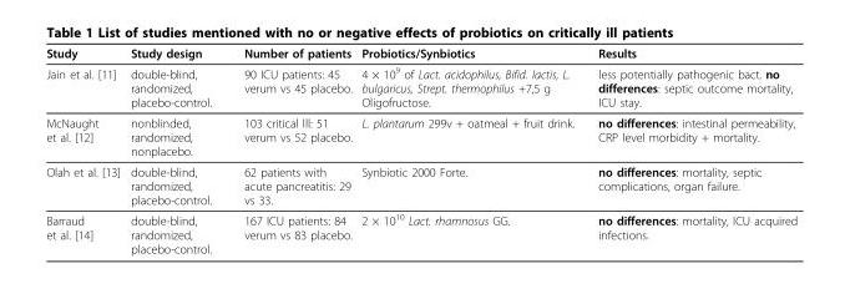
<table><thead><tr><td>Study</td><td>Study design</td><td>Number of patients</td><td>Probiotics/Synbiotics</td><td>Results</td></tr></thead><tbody><tr><td>Jain et al. [11]</td><td>double-blind, randomized, placebo-control.</td><td>90 ICU patients: 45 verum vs 45 placebo.</td><td>4 × 10<sup>9</sup> of Lact. acidophilus, Bifid. lactis, L. bulgaricus, Strept. thermophilus +7,5 g Oligofructose.</td><td>less potentially pathogenic bact. no differences: septic outcome mortality, ICU stay.</td></tr><tr><td>McNaught et al. [12]</td><td>nonblinded, randomized, nonplacebo.</td><td>103 critical lll: 51 verum vs 52 placebo.</td><td>L. plantarum 299v + oatmeal + fruit drink.</td><td>no differences: intestinal permeability, CRP level morbidity + mortality.</td></tr><tr><td>Olah et al. [13]</td><td>double-blind, randomized, placebo-control.</td><td>62 patients with acute pancreatitis: 29 vs 33.</td><td>Synbiotic 2000 Forte.</td><td>no differences: mortality, septic complications, organ failure.</td></tr><tr><td>Barraud et al. [14]</td><td>double-blind, randomized, placebo-control.</td><td>167 ICU patients: 84 verum vs 83 placebo.</td><td>2 × 10<sup>10</sup> Lact. rhamnosus GG.</td><td>no differences: mortality, ICU acquired infections.</td></tr></tbody></table>